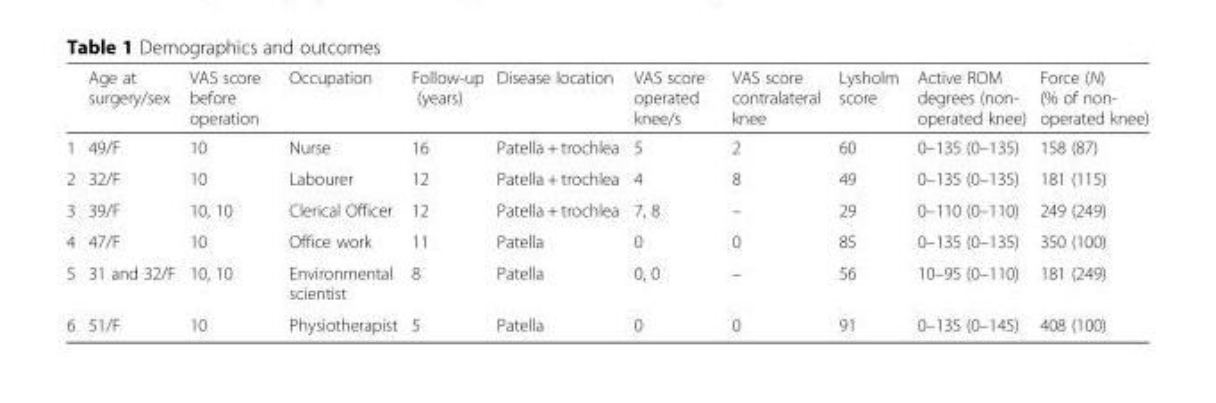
<table><thead><tr><td></td><td>Age at surgery/sex</td><td>VAS score before operation</td><td>Occupation</td><td>Follow-up (years)</td><td>Disease location</td><td>VAS score operated knee/s</td><td>VAS score contralateral knee</td><td>Lysholm score</td><td>Active ROM degrees (non- operated knee)</td><td>Force (N) (% of non- operated knee)</td></tr></thead><tbody><tr><td>1</td><td>49/F</td><td>10</td><td>Nurse</td><td>16</td><td>Patella + trochlea</td><td>5</td><td>2</td><td>60</td><td>0–135 (0–135)</td><td>158 (87)</td></tr><tr><td>2</td><td>32/F</td><td>10</td><td>Labourer</td><td>12</td><td>Patella + trochlea</td><td>4</td><td>8</td><td>49</td><td>0–135 (0–135)</td><td>181 (115)</td></tr><tr><td>3</td><td>39/F</td><td>10, 10</td><td>Clerical Officer</td><td>12</td><td>Patella + trochlea</td><td>7, 8</td><td>–</td><td>29</td><td>0–110 (0–110)</td><td>249 (249)</td></tr><tr><td>4</td><td>47/F</td><td>10</td><td>Office work</td><td>11</td><td>Patella</td><td>0</td><td>0</td><td>85</td><td>0–135 (0–135)</td><td>350 (100)</td></tr><tr><td>5</td><td>31 and 32/F</td><td>10, 10</td><td>Environmental scientist</td><td>8</td><td>Patella</td><td>0, 0</td><td>–</td><td>56</td><td>10–95 (0–110)</td><td>181 (249)</td></tr><tr><td>6</td><td>51/F</td><td>10</td><td>Physiotherapist</td><td>5</td><td>Patella</td><td>0</td><td>0</td><td>91</td><td>0–135 (0–145)</td><td>408 (100)</td></tr></tbody></table>